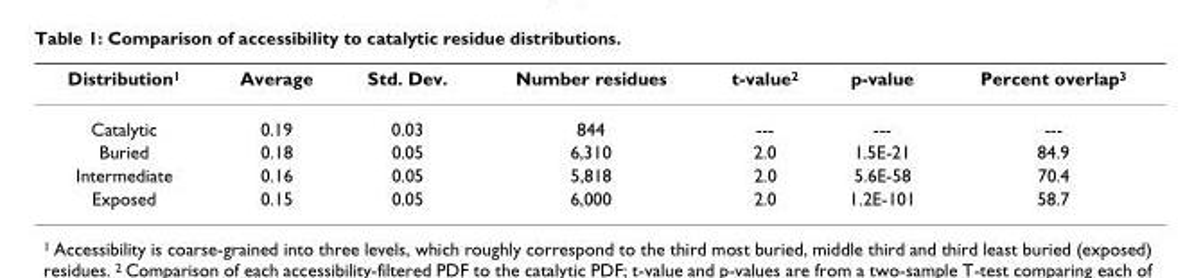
<table><thead><tr><td>Distribution<sup>1</sup></td><td>Average</td><td>Std. Dev.</td><td>Number residues</td><td>t-value<sup>2</sup></td><td>p-value</td><td>Percent overlap<sup>3</sup></td></tr></thead><tbody><tr><td>Catalytic</td><td>0.19</td><td>0.03</td><td>844</td><td>---</td><td>---</td><td>---</td></tr><tr><td>Buried</td><td>0.18</td><td>0.05</td><td>6,310</td><td>2.0</td><td>1.5E-21</td><td>84.9</td></tr><tr><td>Intermediate</td><td>0.16</td><td>0.05</td><td>5,818</td><td>2.0</td><td>5.6E-58</td><td>70.4</td></tr><tr><td>Exposed</td><td>0.15</td><td>0.05</td><td>6,000</td><td>2.0</td><td>1.2E-101</td><td>58.7</td></tr></tbody></table>